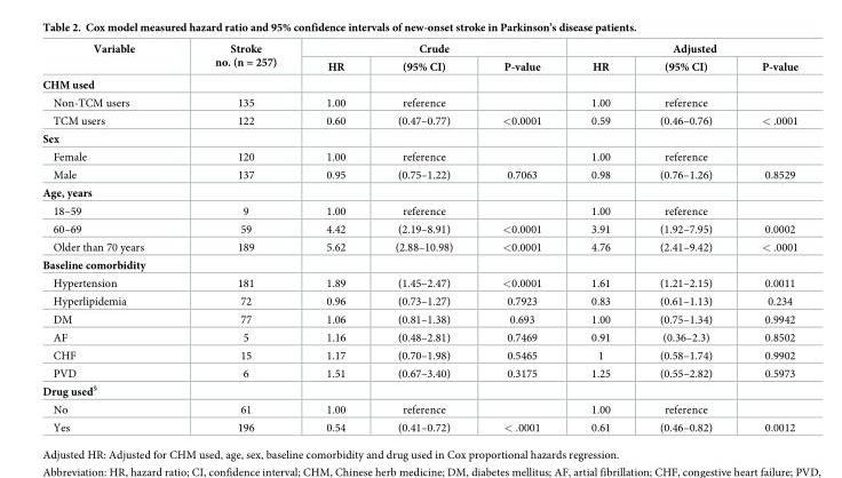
<table><thead><tr><td rowspan="2">Variable</td><td rowspan="2">Stroke no. (n = 257)</td><td colspan="3">Crude</td><td colspan="3">Adjusted</td></tr><tr><td>HR</td><td>(95% CI)</td><td>P-value</td><td>HR</td><td>(95% CI)</td><td>P-value</td></tr></thead><tbody><tr><td colspan="8">CHM used</td></tr><tr><td>Non-TCM users</td><td>135</td><td>1.00</td><td>reference</td><td></td><td>1.00</td><td>reference</td><td></td></tr><tr><td>TCM users</td><td>122</td><td>0.60</td><td>(0.47–0.77)</td><td>&lt;0.0001</td><td>0.59</td><td>(0.46–0.76)</td><td>&lt; .0001</td></tr><tr><td colspan="8">Sex</td></tr><tr><td>Female</td><td>120</td><td>1.00</td><td>reference</td><td></td><td>1.00</td><td>reference</td><td></td></tr><tr><td>Male</td><td>137</td><td>0.95</td><td>(0.75–1.22)</td><td>0.7063</td><td>0.98</td><td>(0.76–1.26)</td><td>0.8529</td></tr><tr><td colspan="8">Age, years</td></tr><tr><td>18–59</td><td>9</td><td>1.00</td><td>reference</td><td></td><td>1.00</td><td>reference</td><td></td></tr><tr><td>60–69</td><td>59</td><td>4.42</td><td>(2.19–8.91)</td><td>&lt;0.0001</td><td>3.91</td><td>(1.92–7.95)</td><td>0.0002</td></tr><tr><td>Older than 70 years</td><td>189</td><td>5.62</td><td>(2.88–10.98)</td><td>&lt;0.0001</td><td>4.76</td><td>(2.41–9.42)</td><td>&lt; .0001</td></tr><tr><td colspan="8">Baseline comorbidity</td></tr><tr><td>Hypertension</td><td>181</td><td>1.89</td><td>(1.45–2.47)</td><td>&lt;0.0001</td><td>1.61</td><td>(1.21–2.15)</td><td>0.0011</td></tr><tr><td>Hyperlipidemia</td><td>72</td><td>0.96</td><td>(0.73–1.27)</td><td>0.7923</td><td>0.83</td><td>(0.61–1.13)</td><td>0.234</td></tr><tr><td>DM</td><td>77</td><td>1.06</td><td>(0.81–1.38)</td><td>0.693</td><td>1.00</td><td>(0.75–1.34)</td><td>0.9942</td></tr><tr><td>AF</td><td>5</td><td>1.16</td><td>(0.48–2.81)</td><td>0.7469</td><td>0.91</td><td>(0.36–2.3)</td><td>0.8502</td></tr><tr><td>CHF</td><td>15</td><td>1.17</td><td>(0.70–1.98)</td><td>0.5465</td><td>1</td><td>(0.58–1.74)</td><td>0.9902</td></tr><tr><td>PVD</td><td>6</td><td>1.51</td><td>(0.67–3.40)</td><td>0.3175</td><td>1.25</td><td>(0.55–2.82)</td><td>0.5973</td></tr><tr><td colspan="8">Drug used<sup>§</sup></td></tr><tr><td>No</td><td>61</td><td>1.00</td><td>reference</td><td></td><td>1.00</td><td>reference</td><td></td></tr><tr><td>Yes</td><td>196</td><td>0.54</td><td>(0.41–0.72)</td><td>&lt; .0001</td><td>0.61</td><td>(0.46–0.82)</td><td>0.0012</td></tr></tbody></table>